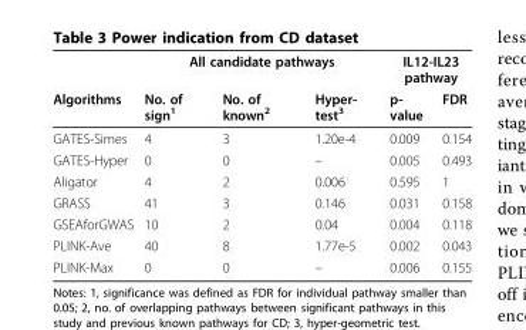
<table><thead><tr><td rowspan="2">Algorithms</td><td colspan="3">All candidate pathways</td><td colspan="2">IL12-IL23 pathway</td></tr><tr><td>No. of sign<sup>1</sup></td><td>No. of known<sup>2</sup></td><td>Hyper- test<sup>3</sup></td><td>p- value</td><td>FDR</td></tr></thead><tbody><tr><td>GATES-Simes</td><td>4</td><td>3</td><td>1.20e-4</td><td>0.009</td><td>0.154</td></tr><tr><td>GATES-Hyper</td><td>0</td><td>0</td><td>–</td><td>0.005</td><td>0.493</td></tr><tr><td>Aligator</td><td>4</td><td>2</td><td>0.006</td><td>0.595</td><td>1</td></tr><tr><td>GRASS</td><td>41</td><td>3</td><td>0.146</td><td>0.031</td><td>0.158</td></tr><tr><td>GSEAforGWAS</td><td>10</td><td>2</td><td>0.04</td><td>0.004</td><td>0.118</td></tr><tr><td>PLINK-Ave</td><td>40</td><td>8</td><td>1.77e-5</td><td>0.002</td><td>0.043</td></tr><tr><td>PLINK-Max</td><td>0</td><td>0</td><td>–</td><td>0.006</td><td>0.155</td></tr></tbody></table>